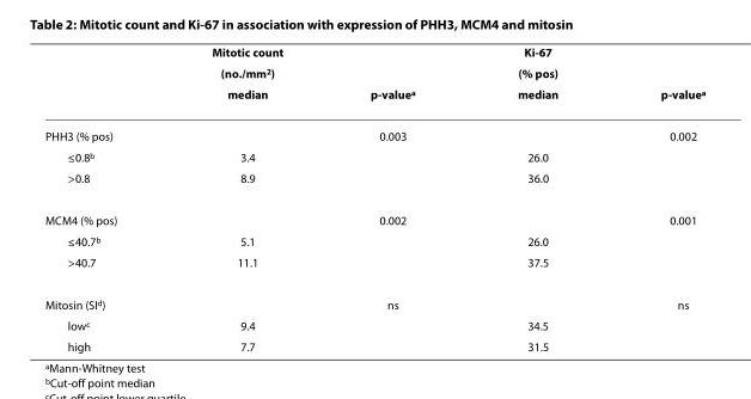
<table><thead><tr><td rowspan="3"></td><td rowspan="3">Mitotic count (no./mm<sup>2</sup>) median</td><td rowspan="3">p-value<sup>a</sup></td><td rowspan="3">Ki-67 (% pos) median</td><td rowspan="3">p-value<sup>a</sup></td></tr><tr></tr><tr></tr></thead><tbody><tr><td>PHH3 (% pos)</td><td></td><td>0.003</td><td></td><td>0.002</td></tr><tr><td>≤0.8<sup>b</sup></td><td>3.4</td><td></td><td>26.0</td><td></td></tr><tr><td>&gt;0.8</td><td>8.9</td><td></td><td>36.0</td><td></td></tr><tr><td>MCM4 (% pos)</td><td></td><td>0.002</td><td></td><td>0.001</td></tr><tr><td>≤40.7<sup>b</sup></td><td>5.1</td><td></td><td>26.0</td><td></td></tr><tr><td>&gt;40.7</td><td>11.1</td><td></td><td>37.5</td><td></td></tr><tr><td>Mitosin (SI<sup>d</sup>)</td><td></td><td>ns</td><td></td><td>ns</td></tr><tr><td>low<sup>c</sup></td><td>9.4</td><td></td><td>34.5</td><td></td></tr><tr><td>high</td><td>7.7</td><td></td><td>31.5</td><td></td></tr></tbody></table>